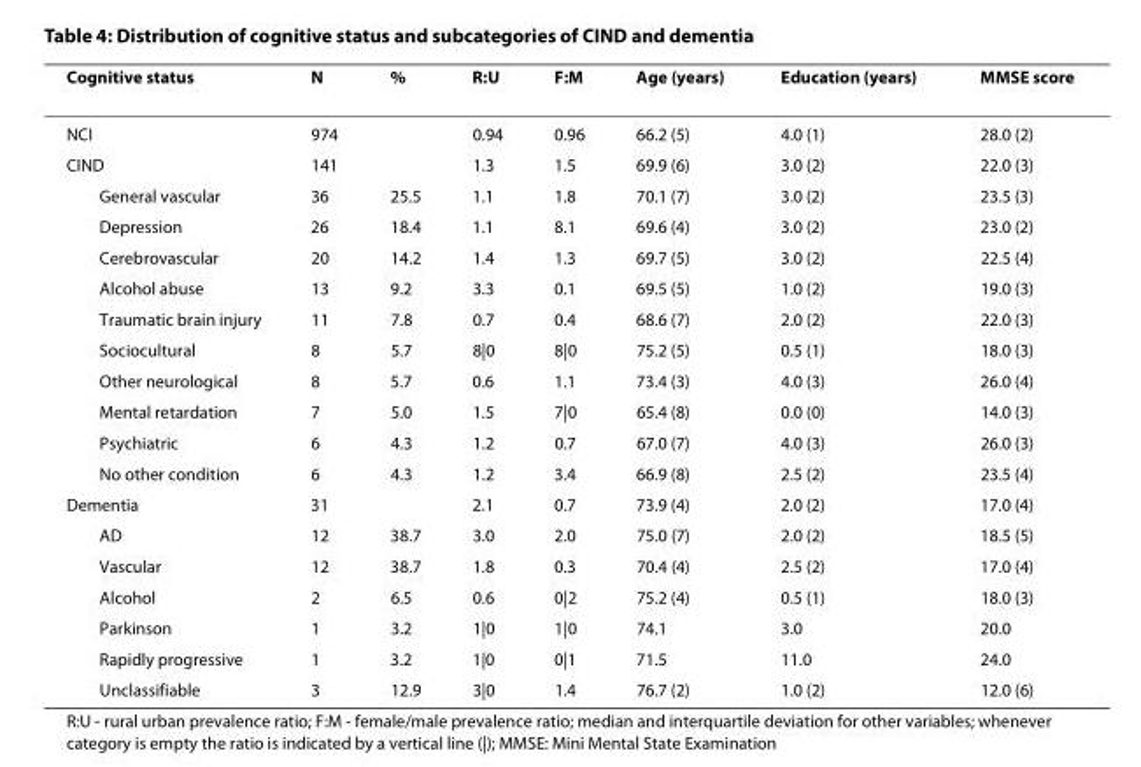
<table><thead><tr><td>Cognitive status</td><td>N</td><td>%</td><td>R:U</td><td>F:M</td><td>Age (years)</td><td>Education (years)</td><td>MMSE score</td></tr></thead><tbody><tr><td>NCI</td><td>974</td><td></td><td>0.94</td><td>0.96</td><td>66.2 (5)</td><td>4.0 (1)</td><td>28.0 (2)</td></tr><tr><td>CIND</td><td>141</td><td></td><td>1.3</td><td>1.5</td><td>69.9 (6)</td><td>3.0 (2)</td><td>22.0 (3)</td></tr><tr><td>General vascular</td><td>36</td><td>25.5</td><td>1.1</td><td>1.8</td><td>70.1 (7)</td><td>3.0 (2)</td><td>23.5 (3)</td></tr><tr><td>Depression</td><td>26</td><td>18.4</td><td>1.1</td><td>8.1</td><td>69.6 (4)</td><td>3.0 (2)</td><td>23.0 (2)</td></tr><tr><td>Cerebrovascular</td><td>20</td><td>14.2</td><td>1.4</td><td>1.3</td><td>69.7 (5)</td><td>3.0 (2)</td><td>22.5 (4)</td></tr><tr><td>Alcohol abuse</td><td>13</td><td>9.2</td><td>3.3</td><td>0.1</td><td>69.5 (5)</td><td>1.0 (2)</td><td>19.0 (3)</td></tr><tr><td>Traumatic brain injury</td><td>11</td><td>7.8</td><td>0.7</td><td>0.4</td><td>68.6 (7)</td><td>2.0 (2)</td><td>22.0 (3)</td></tr><tr><td>Sociocultural</td><td>8</td><td>5.7</td><td>8|0</td><td>8|0</td><td>75.2 (5)</td><td>0.5 (1)</td><td>18.0 (3)</td></tr><tr><td>Other neurological</td><td>8</td><td>5.7</td><td>0.6</td><td>1.1</td><td>73.4 (3)</td><td>4.0 (3)</td><td>26.0 (4)</td></tr><tr><td>Mental retardation</td><td>7</td><td>5.0</td><td>1.5</td><td>7|0</td><td>65.4 (8)</td><td>0.0 (0)</td><td>14.0 (3)</td></tr><tr><td>Psychiatric</td><td>6</td><td>4.3</td><td>1.2</td><td>0.7</td><td>67.0 (7)</td><td>4.0 (3)</td><td>26.0 (3)</td></tr><tr><td>No other condition</td><td>6</td><td>4.3</td><td>1.2</td><td>3.4</td><td>66.9 (8)</td><td>2.5 (2)</td><td>23.5 (4)</td></tr><tr><td>Dementia</td><td>31</td><td></td><td>2.1</td><td>0.7</td><td>73.9 (4)</td><td>2.0 (2)</td><td>17.0 (4)</td></tr><tr><td>AD</td><td>12</td><td>38.7</td><td>3.0</td><td>2.0</td><td>75.0 (7)</td><td>2.0 (2)</td><td>18.5 (5)</td></tr><tr><td>Vascular</td><td>12</td><td>38.7</td><td>1.8</td><td>0.3</td><td>70.4 (4)</td><td>2.5 (2)</td><td>17.0 (4)</td></tr><tr><td>Alcohol</td><td>2</td><td>6.5</td><td>0.6</td><td>0|2</td><td>75.2 (4)</td><td>0.5 (1)</td><td>18.0 (3)</td></tr><tr><td>Parkinson</td><td>1</td><td>3.2</td><td>1|0</td><td>1|0</td><td>74.1</td><td>3.0</td><td>20.0</td></tr><tr><td>Rapidly progressive</td><td>1</td><td>3.2</td><td>1|0</td><td>0|1</td><td>71.5</td><td>11.0</td><td>24.0</td></tr><tr><td>Unclassifiable</td><td>3</td><td>12.9</td><td>3|0</td><td>1.4</td><td>76.7 (2)</td><td>1.0 (2)</td><td>12.0 (6)</td></tr></tbody></table>